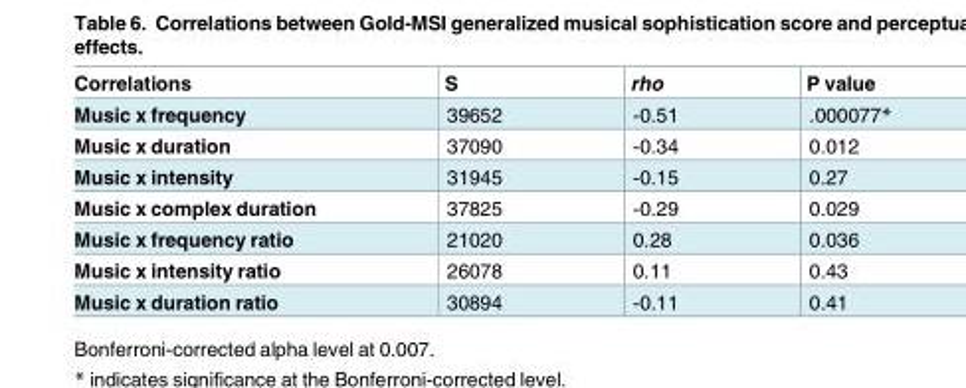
<table><thead><tr><td>Correlations</td><td>S</td><td>rho</td><td>P value</td></tr></thead><tbody><tr><td>Music x frequency</td><td>39652</td><td>-0.51</td><td>.000077*</td></tr><tr><td>Music x duration</td><td>37090</td><td>-0.34</td><td>0.012</td></tr><tr><td>Music x intensity</td><td>31945</td><td>-0.15</td><td>0.27</td></tr><tr><td>Music x complex duration</td><td>37825</td><td>-0.29</td><td>0.029</td></tr><tr><td>Music x frequency ratio</td><td>21020</td><td>0.28</td><td>0.036</td></tr><tr><td>Music x intensity ratio</td><td>26078</td><td>0.11</td><td>0.43</td></tr><tr><td>Music x duration ratio</td><td>30894</td><td>-0.11</td><td>0.41</td></tr></tbody></table>